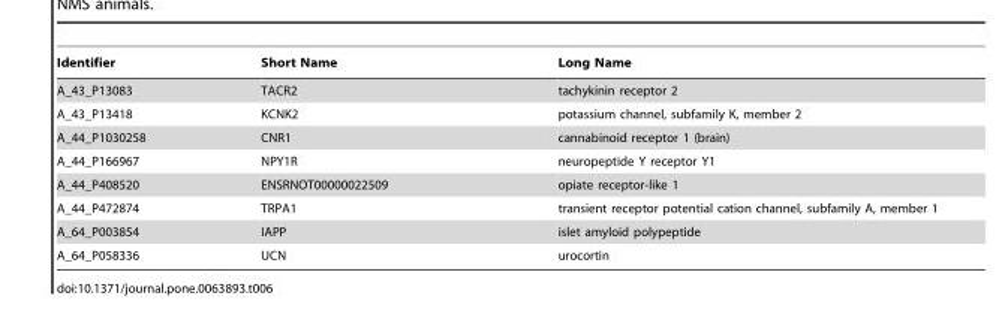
<table><thead><tr><td>Identifier</td><td>Short Name</td><td>Long Name</td></tr></thead><tbody><tr><td>A_43_P13083</td><td>TACR2</td><td>tachykinin receptor 2</td></tr><tr><td>A_43_P13418</td><td>KCNK2</td><td>potassium channel, subfamily K, member 2</td></tr><tr><td>A_44_P1030258</td><td>CNR1</td><td>cannabinoid receptor 1 (brain)</td></tr><tr><td>A_44_P166967</td><td>NPY1R</td><td>neuropeptide Y receptor Y1</td></tr><tr><td>A_44_P408520</td><td>ENSRNOT00000022509</td><td>opiate receptor-like 1</td></tr><tr><td>A_44_P472874</td><td>TRPA1</td><td>transient receptor potential cation channel, subfamily A, member 1</td></tr><tr><td>A_64_P003854</td><td>IAPP</td><td>islet amyloid polypeptide</td></tr><tr><td>A_64_P058336</td><td>UCN</td><td>urocortin</td></tr></tbody></table>